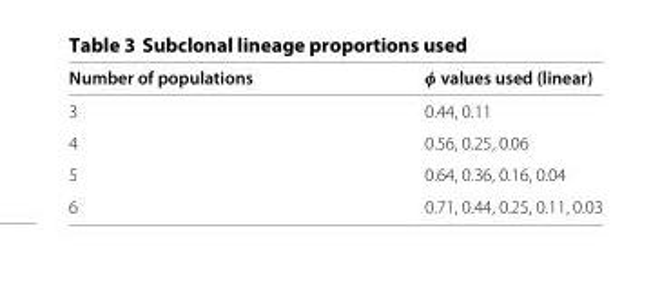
<table><thead><tr><td>Number of populations</td><td>φ values used (linear)</td></tr></thead><tbody><tr><td>3</td><td>0.44, 0.11</td></tr><tr><td>4</td><td>0.56, 0.25, 0.06</td></tr><tr><td>5</td><td>0.64, 0.36, 0.16, 0.04</td></tr><tr><td>6</td><td>0.71, 0.44, 0.25, 0.11, 0.03</td></tr></tbody></table>